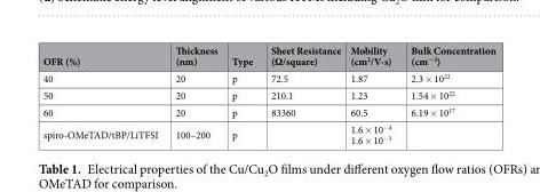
<table><thead><tr><td>OFR (%)</td><td>Thickness (nm)</td><td>Type</td><td>Sheet Resistance (Ω/square)</td><td>Mobility (cm<sup>2</sup>/V-s)</td><td>Bulk Concentration (cm<sup>−3</sup>)</td></tr></thead><tbody><tr><td>40</td><td>20</td><td>p</td><td>72.5</td><td>1.87</td><td>2.3 × 10<sup>22</sup></td></tr><tr><td>50</td><td>20</td><td>p</td><td>210.1</td><td>1.23</td><td>1.54 × 10<sup>22</sup></td></tr><tr><td>60</td><td>20</td><td>p</td><td>83360</td><td>60.5</td><td>6.19 × 10<sup>17</sup></td></tr><tr><td>spiro-OMeTAD/tBP/LiTFSI</td><td>100–200</td><td>p</td><td></td><td>1.6 × 10<sup>−4</sup> 1.6 × 10<sup>−3</sup></td><td></td></tr></tbody></table>